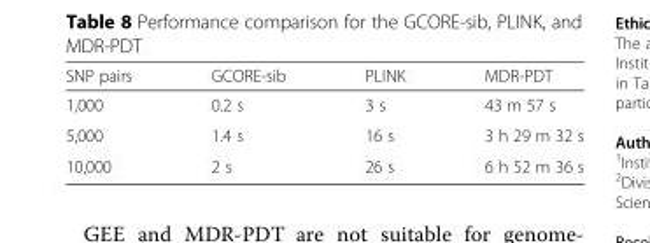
<table><thead><tr><td>SNP pairs</td><td>GCORE-sib</td><td>PLINK</td><td>MDR-PDT</td></tr></thead><tbody><tr><td>1,000</td><td>0.2 s</td><td>3 s</td><td>43 m 57 s</td></tr><tr><td>5,000</td><td>1.4 s</td><td>16 s</td><td>3 h 29 m 32 s</td></tr><tr><td>10,000</td><td>2 s</td><td>26 s</td><td>6 h 52 m 36 s</td></tr></tbody></table>